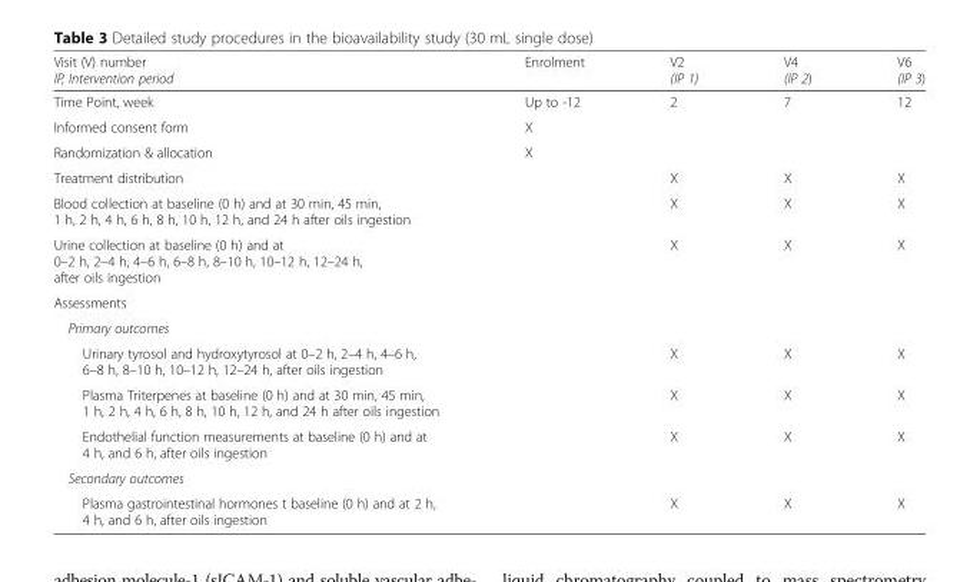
<table><thead><tr><td>Visit (V) number IP, Intervention period</td><td>Enrolment</td><td>V2 (IP 1)</td><td>V4 (IP 2)</td><td>V6 (IP 3)</td></tr></thead><tbody><tr><td>Time Point, week</td><td>Up to -12</td><td>2</td><td>7</td><td>12</td></tr><tr><td>Informed consent form</td><td>X</td><td></td><td></td><td></td></tr><tr><td>Randomization &amp; allocation</td><td>X</td><td></td><td></td><td></td></tr><tr><td>Treatment distribution</td><td></td><td>X</td><td>X</td><td>X</td></tr><tr><td>Blood collection at baseline (0 h) and at 30 min, 45 min, 1 h, 2 h, 4 h, 6 h, 8 h, 10 h, 12 h, and 24 h after oils ingestion</td><td></td><td>X</td><td>X</td><td>X</td></tr><tr><td>Urine collection at baseline (0 h) and at 0–2 h, 2–4 h, 4–6 h, 6–8 h, 8–10 h, 10–12 h, 12–24 h, after oils ingestion</td><td></td><td>X</td><td>X</td><td>X</td></tr><tr><td colspan="5">Assessments</td></tr><tr><td colspan="5">Primary outcomes</td></tr><tr><td>Urinary tyrosol and hydroxytyrosol at 0–2 h, 2–4 h, 4–6 h, 6–8 h, 8–10 h, 10–12 h, 12–24 h, after oils ingestion</td><td></td><td>X</td><td>X</td><td>X</td></tr><tr><td>Plasma Triterpenes at baseline (0 h) and at 30 min, 45 min, 1 h, 2 h, 4 h, 6 h, 8 h, 10 h, 12 h, and 24 h after oils ingestion</td><td></td><td>X</td><td>X</td><td>X</td></tr><tr><td>Endothelial function measurements at baseline (0 h) and at 4 h, and 6 h, after oils ingestion</td><td></td><td>X</td><td>X</td><td>X</td></tr><tr><td colspan="5">Secondary outcomes</td></tr><tr><td>Plasma gastrointestinal hormones t baseline (0 h) and at 2 h, 4 h, and 6 h, after oils ingestion</td><td></td><td>X</td><td>X</td><td>X</td></tr></tbody></table>